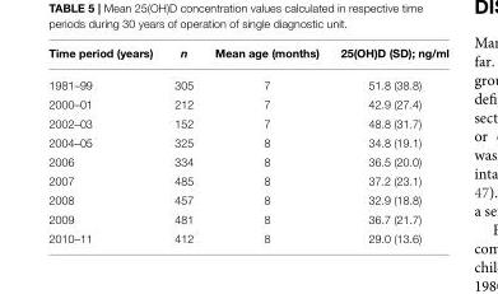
<table><thead><tr><td>Time period (years)</td><td>n</td><td>Mean age (months)</td><td>25(OH)D (SD); ng/ml</td></tr></thead><tbody><tr><td>1981–99</td><td>305</td><td>7</td><td>51.8 (38.8)</td></tr><tr><td>2000–01</td><td>212</td><td>7</td><td>42.9 (27.4)</td></tr><tr><td>2002–03</td><td>152</td><td>7</td><td>48.8 (31.7)</td></tr><tr><td>2004–05</td><td>325</td><td>8</td><td>34.8 (19.1)</td></tr><tr><td>2006</td><td>334</td><td>8</td><td>36.5 (20.0)</td></tr><tr><td>2007</td><td>485</td><td>8</td><td>37.2 (23.1)</td></tr><tr><td>2008</td><td>457</td><td>8</td><td>32.9 (18.8)</td></tr><tr><td>2009</td><td>481</td><td>8</td><td>36.7 (21.7)</td></tr><tr><td>2010–11</td><td>412</td><td>8</td><td>29.0 (13.6)</td></tr></tbody></table>